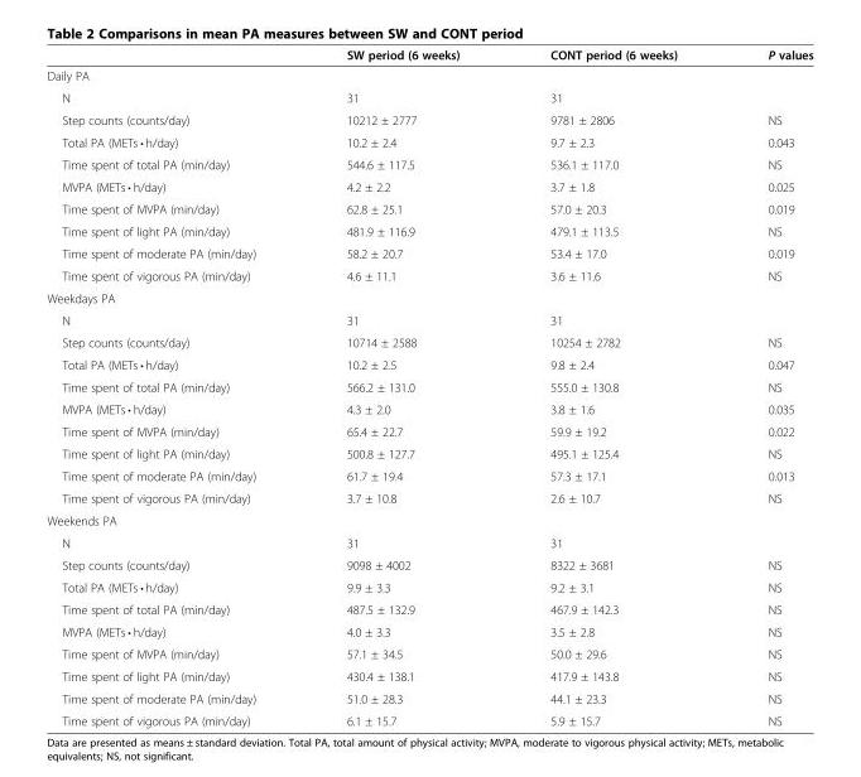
<table><thead><tr><td></td><td>SW period (6 weeks)</td><td>CONT period (6 weeks)</td><td>P values</td></tr></thead><tbody><tr><td colspan="4">Daily PA</td></tr><tr><td>N</td><td>31</td><td>31</td><td></td></tr><tr><td>Step counts (counts/day)</td><td>10212 ± 2777</td><td>9781 ± 2806</td><td>NS</td></tr><tr><td>Total PA (METs • h/day)</td><td>10.2 ± 2.4</td><td>9.7 ± 2.3</td><td>0.043</td></tr><tr><td>Time spent of total PA (min/day)</td><td>544.6 ± 117.5</td><td>536.1 ± 117.0</td><td>NS</td></tr><tr><td>MVPA (METs • h/day)</td><td>4.2 ± 2.2</td><td>3.7 ± 1.8</td><td>0.025</td></tr><tr><td>Time spent of MVPA (min/day)</td><td>62.8 ± 25.1</td><td>57.0 ± 20.3</td><td>0.019</td></tr><tr><td>Time spent of light PA (min/day)</td><td>481.9 ± 116.9</td><td>479.1 ± 113.5</td><td>NS</td></tr><tr><td>Time spent of moderate PA (min/day)</td><td>58.2 ± 20.7</td><td>53.4 ± 17.0</td><td>0.019</td></tr><tr><td>Time spent of vigorous PA (min/day)</td><td>4.6 ± 11.1</td><td>3.6 ± 11.6</td><td>NS</td></tr><tr><td colspan="4">Weekdays PA</td></tr><tr><td>N</td><td>31</td><td>31</td><td></td></tr><tr><td>Step counts (counts/day)</td><td>10714 ± 2588</td><td>10254 ± 2782</td><td>NS</td></tr><tr><td>Total PA (METs • h/day)</td><td>10.2 ± 2.5</td><td>9.8 ± 2.4</td><td>0.047</td></tr><tr><td>Time spent of total PA (min/day)</td><td>566.2 ± 131.0</td><td>555.0 ± 130.8</td><td>NS</td></tr><tr><td>MVPA (METs • h/day)</td><td>4.3 ± 2.0</td><td>3.8 ± 1.6</td><td>0.035</td></tr><tr><td>Time spent of MVPA (min/day)</td><td>65.4 ± 22.7</td><td>59.9 ± 19.2</td><td>0.022</td></tr><tr><td>Time spent of light PA (min/day)</td><td>500.8 ± 127.7</td><td>495.1 ± 125.4</td><td>NS</td></tr><tr><td>Time spent of moderate PA (min/day)</td><td>61.7 ± 19.4</td><td>57.3 ± 17.1</td><td>0.013</td></tr><tr><td>Time spent of vigorous PA (min/day)</td><td>3.7 ± 10.8</td><td>2.6 ± 10.7</td><td>NS</td></tr><tr><td colspan="4">Weekends PA</td></tr><tr><td>N</td><td>31</td><td>31</td><td></td></tr><tr><td>Step counts (counts/day)</td><td>9098 ± 4002</td><td>8322 ± 3681</td><td>NS</td></tr><tr><td>Total PA (METs • h/day)</td><td>9.9 ± 3.3</td><td>9.2 ± 3.1</td><td>NS</td></tr><tr><td>Time spent of total PA (min/day)</td><td>487.5 ± 132.9</td><td>467.9 ± 142.3</td><td>NS</td></tr><tr><td>MVPA (METs • h/day)</td><td>4.0 ± 3.3</td><td>3.5 ± 2.8</td><td>NS</td></tr><tr><td>Time spent of MVPA (min/day)</td><td>57.1 ± 34.5</td><td>50.0 ± 29.6</td><td>NS</td></tr><tr><td>Time spent of light PA (min/day)</td><td>430.4 ± 138.1</td><td>417.9 ± 143.8</td><td>NS</td></tr><tr><td>Time spent of moderate PA (min/day)</td><td>51.0 ± 28.3</td><td>44.1 ± 23.3</td><td>NS</td></tr><tr><td>Time spent of vigorous PA (min/day)</td><td>6.1 ± 15.7</td><td>5.9 ± 15.7</td><td>NS</td></tr></tbody></table>